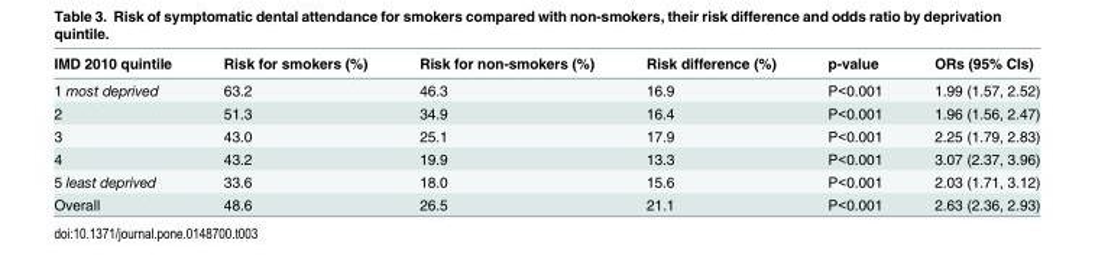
<table><thead><tr><td>IMD 2010 quintile</td><td>Risk for smokers (%)</td><td>Risk for non-smokers (%)</td><td>Risk difference (%)</td><td>p-value</td><td>ORs (95% CIs)</td></tr></thead><tbody><tr><td>1 most deprived</td><td>63.2</td><td>46.3</td><td>16.9</td><td>P&lt;0.001</td><td>1.99 (1.57, 2.52)</td></tr><tr><td>2</td><td>51.3</td><td>34.9</td><td>16.4</td><td>P&lt;0.001</td><td>1.96 (1.56, 2.47)</td></tr><tr><td>3</td><td>43.0</td><td>25.1</td><td>17.9</td><td>P&lt;0.001</td><td>2.25 (1.79, 2.83)</td></tr><tr><td>4</td><td>43.2</td><td>19.9</td><td>13.3</td><td>P&lt;0.001</td><td>3.07 (2.37, 3.96)</td></tr><tr><td>5 least deprived</td><td>33.6</td><td>18.0</td><td>15.6</td><td>P&lt;0.001</td><td>2.03 (1.71, 3.12)</td></tr><tr><td>Overall</td><td>48.6</td><td>26.5</td><td>21.1</td><td>P&lt;0.001</td><td>2.63 (2.36, 2.93)</td></tr></tbody></table>